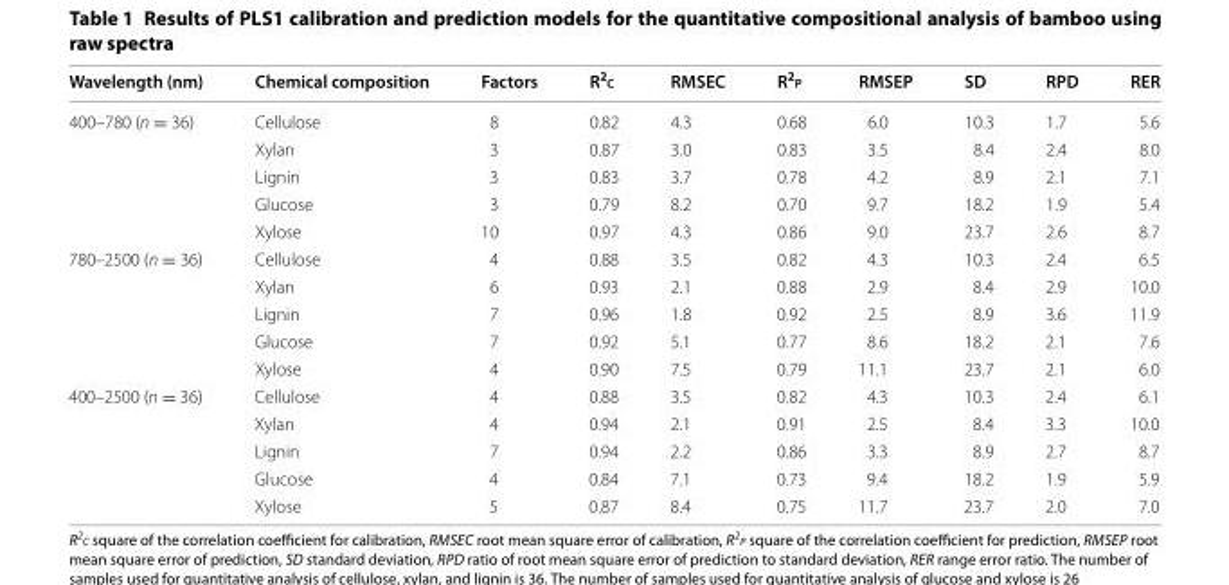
<table><thead><tr><td>Wavelength (nm)</td><td>Chemical composition</td><td>Factors</td><td>R<sup>2</sup>c</td><td>RMSEC</td><td>R<sup>2</sup>p</td><td>RMSEP</td><td>SD</td><td>RPD</td><td>RER</td></tr></thead><tbody><tr><td rowspan="5">400–780 (n = 36)</td><td>Cellulose</td><td>8</td><td>0.82</td><td>4.3</td><td>0.68</td><td>6.0</td><td>10.3</td><td>1.7</td><td>5.6</td></tr><tr><td>Xylan</td><td>3</td><td>0.87</td><td>3.0</td><td>0.83</td><td>3.5</td><td>8.4</td><td>2.4</td><td>8.0</td></tr><tr><td>Lignin</td><td>3</td><td>0.83</td><td>3.7</td><td>0.78</td><td>4.2</td><td>8.9</td><td>2.1</td><td>7.1</td></tr><tr><td>Glucose</td><td>3</td><td>0.79</td><td>8.2</td><td>0.70</td><td>9.7</td><td>18.2</td><td>1.9</td><td>5.4</td></tr><tr><td>Xylose</td><td>10</td><td>0.97</td><td>4.3</td><td>0.86</td><td>9.0</td><td>23.7</td><td>2.6</td><td>8.7</td></tr><tr><td rowspan="5">780–2500 (n = 36)</td><td>Cellulose</td><td>4</td><td>0.88</td><td>3.5</td><td>0.82</td><td>4.3</td><td>10.3</td><td>2.4</td><td>6.5</td></tr><tr><td>Xylan</td><td>6</td><td>0.93</td><td>2.1</td><td>0.88</td><td>2.9</td><td>8.4</td><td>2.9</td><td>10.0</td></tr><tr><td>Lignin</td><td>7</td><td>0.96</td><td>1.8</td><td>0.92</td><td>2.5</td><td>8.9</td><td>3.6</td><td>11.9</td></tr><tr><td>Glucose</td><td>7</td><td>0.92</td><td>5.1</td><td>0.77</td><td>8.6</td><td>18.2</td><td>2.1</td><td>7.6</td></tr><tr><td>Xylose</td><td>4</td><td>0.90</td><td>7.5</td><td>0.79</td><td>11.1</td><td>23.7</td><td>2.1</td><td>6.0</td></tr><tr><td rowspan="5">400–2500 (n = 36)</td><td>Cellulose</td><td>4</td><td>0.88</td><td>3.5</td><td>0.82</td><td>4.3</td><td>10.3</td><td>2.4</td><td>6.1</td></tr><tr><td>Xylan</td><td>4</td><td>0.94</td><td>2.1</td><td>0.91</td><td>2.5</td><td>8.4</td><td>3.3</td><td>10.0</td></tr><tr><td>Lignin</td><td>7</td><td>0.94</td><td>2.2</td><td>0.86</td><td>3.3</td><td>8.9</td><td>2.7</td><td>8.7</td></tr><tr><td>Glucose</td><td>4</td><td>0.84</td><td>7.1</td><td>0.73</td><td>9.4</td><td>18.2</td><td>1.9</td><td>5.9</td></tr><tr><td>Xylose</td><td>5</td><td>0.87</td><td>8.4</td><td>0.75</td><td>11.7</td><td>23.7</td><td>2.0</td><td>7.0</td></tr></tbody></table>